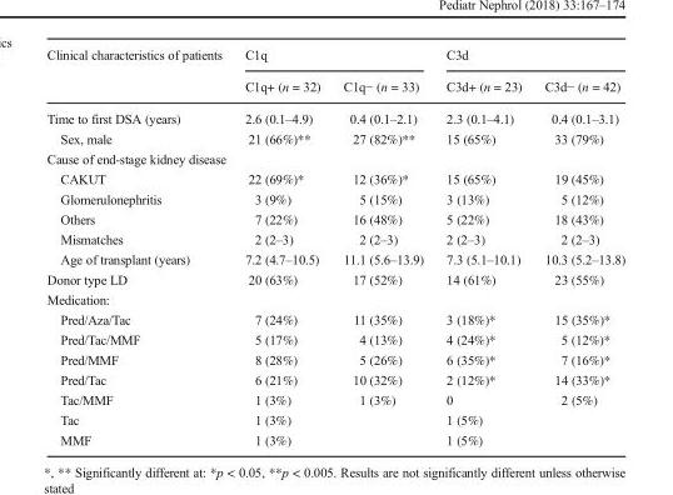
<table><thead><tr><td rowspan="2">Clinical characteristics of patients</td><td colspan="2">C1q</td><td colspan="2">C3d</td></tr><tr><td>C1q+ (n = 32)</td><td>C1q− (n = 33)</td><td>C3d+ (n = 23)</td><td>C3d− (n = 42)</td></tr></thead><tbody><tr><td>Time to first DSA (years)</td><td>2.6 (0.1–4.9)</td><td>0.4 (0.1–2.1)</td><td>2.3 (0.1–4.1)</td><td>0.4 (0.1–3.1)</td></tr><tr><td>Sex, male</td><td>21 (66%)**</td><td>27 (82%)**</td><td>15 (65%)</td><td>33 (79%)</td></tr><tr><td colspan="5">Cause of end-stage kidney disease</td></tr><tr><td>CAKUT</td><td>22 (69%)*</td><td>12 (36%)*</td><td>15 (65%)</td><td>19 (45%)</td></tr><tr><td>Glomerulonephritis</td><td>3 (9%)</td><td>5 (15%)</td><td>3 (13%)</td><td>5 (12%)</td></tr><tr><td>Others</td><td>7 (22%)</td><td>16 (48%)</td><td>5 (22%)</td><td>18 (43%)</td></tr><tr><td>Mismatches</td><td>2 (2–3)</td><td>2 (2–3)</td><td>2 (2–3)</td><td>2 (2–3)</td></tr><tr><td>Age of transplant (years)</td><td>7.2 (4.7–10.5)</td><td>11.1 (5.6–13.9)</td><td>7.3 (5.1–10.1)</td><td>10.3 (5.2–13.8)</td></tr><tr><td>Donor type LD</td><td>20 (63%)</td><td>17 (52%)</td><td>14 (61%)</td><td>23 (55%)</td></tr><tr><td colspan="5">Medication:</td></tr><tr><td>Pred/Aza/Tac</td><td>7 (24%)</td><td>11 (35%)</td><td>3 (18%)*</td><td>15 (35%)*</td></tr><tr><td>Pred/Tac/MMF</td><td>5 (17%)</td><td>4 (13%)</td><td>4 (24%)*</td><td>5 (12%)*</td></tr><tr><td>Pred/MMF</td><td>8 (28%)</td><td>5 (26%)</td><td>6 (35%)*</td><td>7 (16%)*</td></tr><tr><td>Pred/Tac</td><td>6 (21%)</td><td>10 (32%)</td><td>2 (12%)*</td><td>14 (33%)*</td></tr><tr><td>Tac/MMF</td><td>1 (3%)</td><td>1 (3%)</td><td>0</td><td>2 (5%)</td></tr><tr><td>Tac</td><td>1 (3%)</td><td></td><td>1 (5%)</td><td></td></tr><tr><td>MMF</td><td>1 (3%)</td><td></td><td>1 (5%)</td><td></td></tr></tbody></table>